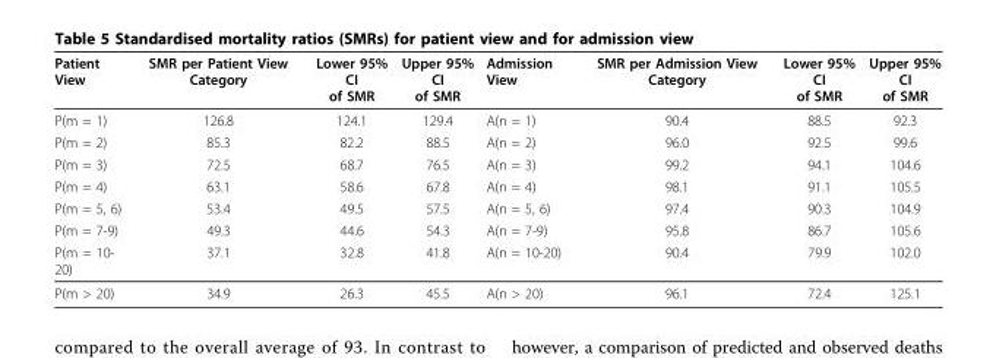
<table><tbody><tr><td>Patient View</td><td>SMR per Patient View Category</td><td>Lower 95% CI of SMR</td><td>Upper 95% CI of SMR</td><td>Admission View</td><td>SMR per Admission View Category</td><td>Lower 95% CI of SMR</td><td>Upper 95% CI of SMR</td></tr><tr><td>P(m = 1)</td><td>126.8</td><td>124.1</td><td>129.4</td><td>A(n = 1)</td><td>90.4</td><td>88.5</td><td>92.3</td></tr><tr><td>P(m = 2)</td><td>85.3</td><td>82.2</td><td>88.5</td><td>A(n = 2)</td><td>96.0</td><td>92.5</td><td>99.6</td></tr><tr><td>P(m = 3)</td><td>72.5</td><td>68.7</td><td>76.5</td><td>A(n = 3)</td><td>99.2</td><td>94.1</td><td>104.6</td></tr><tr><td>P(m = 4)</td><td>63.1</td><td>58.6</td><td>67.8</td><td>A(n = 4)</td><td>98.1</td><td>91.1</td><td>105.5</td></tr><tr><td>P(m = 5, 6)</td><td>53.4</td><td>49.5</td><td>57.5</td><td>A(n = 5, 6)</td><td>97.4</td><td>90.3</td><td>104.9</td></tr><tr><td>P(m = 7-9)</td><td>49.3</td><td>44.6</td><td>54.3</td><td>A(n = 7-9)</td><td>95.8</td><td>86.7</td><td>105.6</td></tr><tr><td>P(m = 10- 20)</td><td>37.1</td><td>32.8</td><td>41.8</td><td>A(n = 10-20)</td><td>90.4</td><td>79.9</td><td>102.0</td></tr><tr><td>P(m &gt; 20)</td><td>34.9</td><td>26.3</td><td>45.5</td><td>A(n &gt; 20)</td><td>96.1</td><td>72.4</td><td>125.1</td></tr></tbody></table>